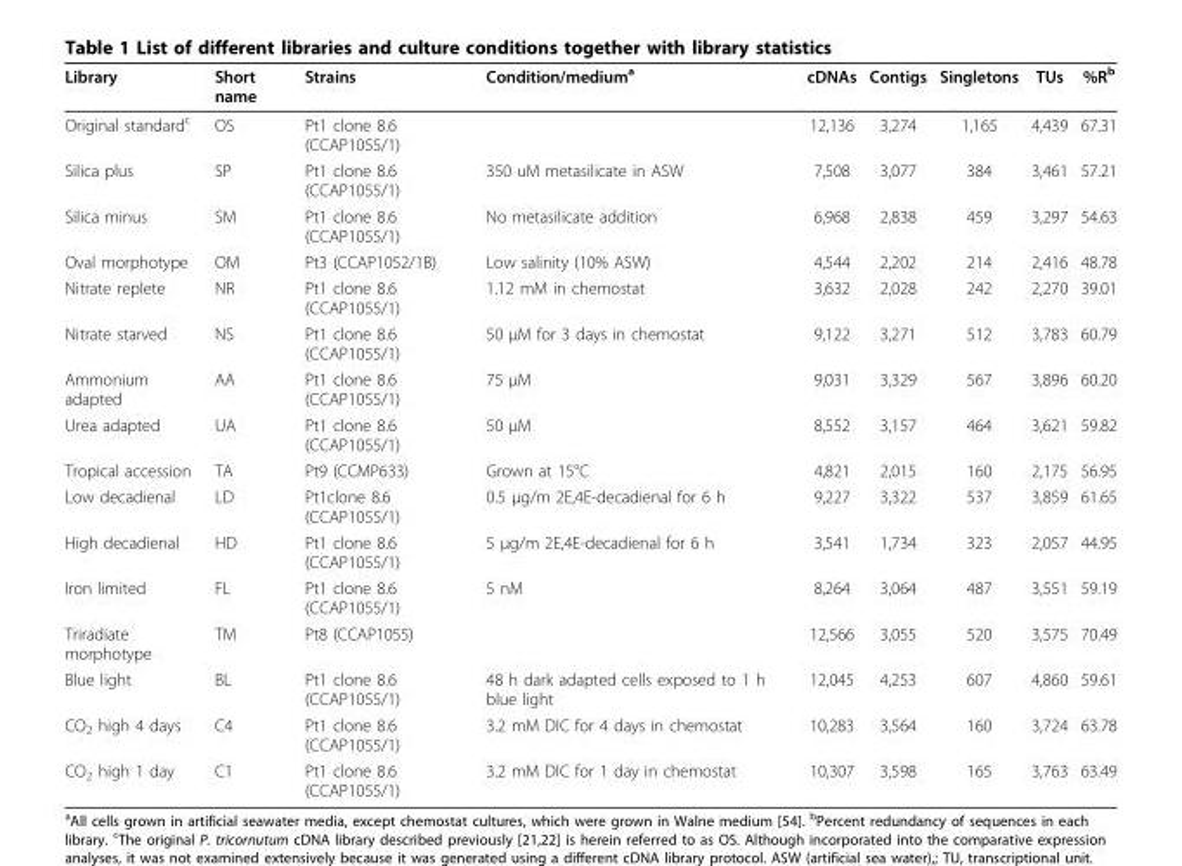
<table><thead><tr><td>Library</td><td>Short name</td><td>Strains</td><td>Condition/medium<sup>a</sup></td><td>cDNAs</td><td>Contigs</td><td>Singletons</td><td>TUs</td><td>%R<sup>b</sup></td></tr></thead><tbody><tr><td>Original standard<sup>c</sup></td><td>OS</td><td>Pt1 clone 8.6 (CCAP1055/1)</td><td></td><td>12,136</td><td>3,274</td><td>1,165</td><td>4,439</td><td>67.31</td></tr><tr><td>Silica plus</td><td>SP</td><td>Pt1 clone 8.6 (CCAP1055/1)</td><td>350 uM metasilicate in ASW</td><td>7,508</td><td>3,077</td><td>384</td><td>3,461</td><td>57.21</td></tr><tr><td>Silica minus</td><td>SM</td><td>Pt1 clone 8.6 (CCAP1055/1)</td><td>No metasilicate addition</td><td>6,968</td><td>2,838</td><td>459</td><td>3,297</td><td>54.63</td></tr><tr><td>Oval morphotype</td><td>OM</td><td>Pt3 (CCAP1052/1B)</td><td>Low salinity (10% ASW)</td><td>4,544</td><td>2,202</td><td>214</td><td>2,416</td><td>48.78</td></tr><tr><td>Nitrate replete</td><td>NR</td><td>Pt1 clone 8.6 (CCAP1055/1)</td><td>1.12 mM in chemostat</td><td>3,632</td><td>2,028</td><td>242</td><td>2,270</td><td>39.01</td></tr><tr><td>Nitrate starved</td><td>NS</td><td>Pt1 clone 8.6 (CCAP1055/1)</td><td>50 μM for 3 days in chemostat</td><td>9,122</td><td>3,271</td><td>512</td><td>3,783</td><td>60.79</td></tr><tr><td>Ammonium adapted</td><td>AA</td><td>Pt1 clone 8.6 (CCAP1055/1)</td><td>75 μM</td><td>9,031</td><td>3,329</td><td>567</td><td>3,896</td><td>60.20</td></tr><tr><td>Urea adapted</td><td>UA</td><td>Pt1 clone 8.6 (CCAP1055/1)</td><td>50 μM</td><td>8,552</td><td>3,157</td><td>464</td><td>3,621</td><td>59.82</td></tr><tr><td>Tropical accession</td><td>TA</td><td>Pt9 (CCMP633)</td><td>Grown at 15°C</td><td>4,821</td><td>2,015</td><td>160</td><td>2,175</td><td>56.95</td></tr><tr><td>Low decadienal</td><td>LD</td><td>Pt1clone 8.6 (CCAP1055/1)</td><td>0.5 μg/m 2E,4E-decadienal for 6 h</td><td>9,227</td><td>3,322</td><td>537</td><td>3,859</td><td>61.65</td></tr><tr><td>High decadienal</td><td>HD</td><td>Pt1 clone 8.6 (CCAP1055/1)</td><td>5 μg/m 2E,4E-decadienal for 6 h</td><td>3,541</td><td>1,734</td><td>323</td><td>2,057</td><td>44.95</td></tr><tr><td>Iron limited</td><td>FL</td><td>Pt1 clone 8.6 (CCAP1055/1)</td><td>5 nM</td><td>8,264</td><td>3,064</td><td>487</td><td>3,551</td><td>59.19</td></tr><tr><td>Triradiate morphotype</td><td>TM</td><td>Pt8 (CCAP1055)</td><td></td><td>12,566</td><td>3,055</td><td>520</td><td>3,575</td><td>70.49</td></tr><tr><td>Blue light</td><td>BL</td><td>Pt1 clone 8.6 (CCAP1055/1)</td><td>48 h dark adapted cells exposed to 1 h blue light</td><td>12,045</td><td>4,253</td><td>607</td><td>4,860</td><td>59.61</td></tr><tr><td>CO<sub>2</sub> high 4 days</td><td>C4</td><td>Pt1 clone 8.6 (CCAP1055/1)</td><td>3.2 mM DIC for 4 days in chemostat</td><td>10,283</td><td>3,564</td><td>160</td><td>3,724</td><td>63.78</td></tr><tr><td>CO<sub>2</sub> high 1 day</td><td>C1</td><td>Pt1 clone 8.6 (CCAP1055/1)</td><td>3.2 mM DIC for 1 day in chemostat</td><td>10,307</td><td>3,598</td><td>165</td><td>3,763</td><td>63.49</td></tr></tbody></table>